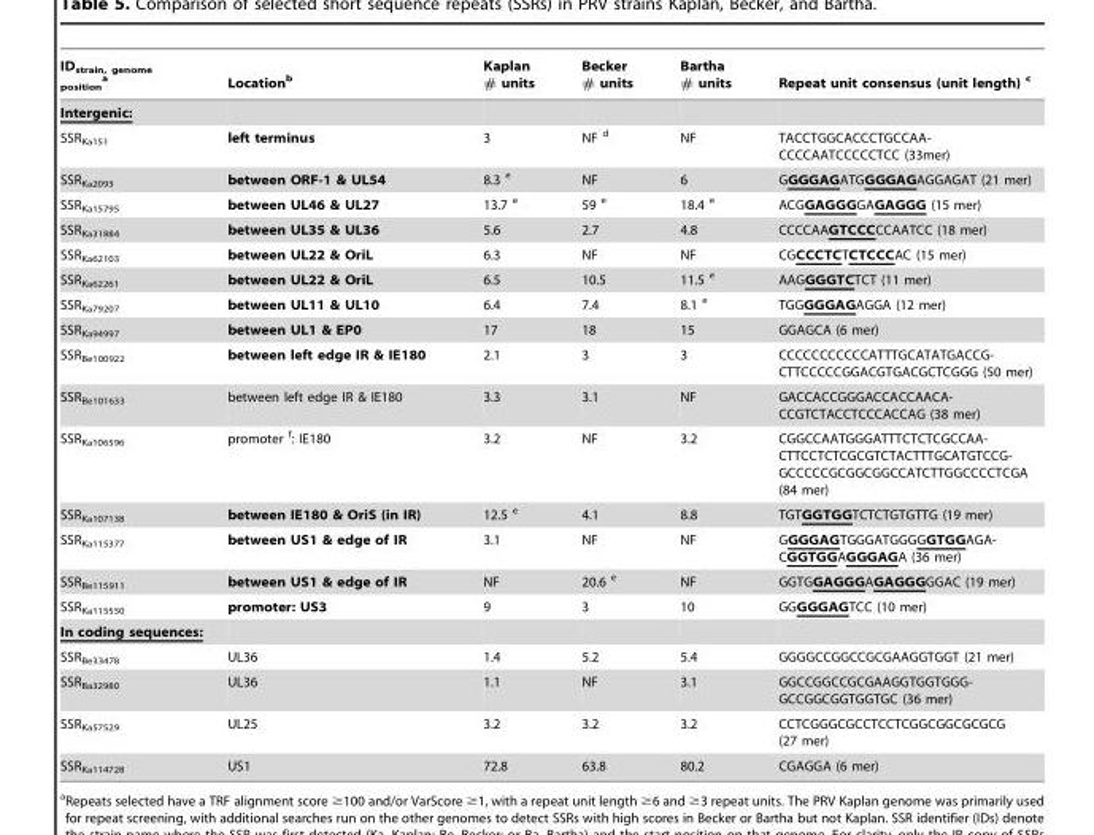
<table><thead><tr><td>ID<sub>strain, genome position</sub> a</td><td>Location<sup>b</sup></td><td>Kaplan # units</td><td>Becker # units</td><td>Bartha # units</td><td>Repeat unit consensus (unit length) c</td></tr></thead><tbody><tr><td colspan="6">Intergenic:</td></tr><tr><td>SSR<sub>Ka151</sub></td><td>left terminus</td><td>3</td><td>NF d</td><td>NF</td><td>TACCTGGCACCCTGCCAA- CCCCAATCCCCCTCC (33mer)</td></tr><tr><td>SSR<sub>Ka2093</sub></td><td>between ORF-1 &amp; UL54</td><td>8.3 e</td><td>NF</td><td>6</td><td>GGGGAGATGGGGAGAGGAGAT (21 mer)</td></tr><tr><td>SSR<sub>Ka15795</sub></td><td>between UL46 &amp; UL27</td><td>13.7 e</td><td>59 e</td><td>18.4 e</td><td>ACGGAGGGGAGAGGG (15 mer)</td></tr><tr><td>SSR<sub>Ka31884</sub></td><td>between UL35 &amp; UL36</td><td>5.6</td><td>2.7</td><td>4.8</td><td>CCCCAAGTCCCCCAATCC (18 mer)</td></tr><tr><td>SSR<sub>Ka62103</sub></td><td>between UL22 &amp; OriL</td><td>6.3</td><td>NF</td><td>NF</td><td>CGCCCTCTCTCCCAC (15 mer)</td></tr><tr><td>SSR<sub>Ka62261</sub></td><td>between UL22 &amp; OriL</td><td>6.5</td><td>10.5</td><td>11.5 e</td><td>AAGGGGTCTCT (11 mer)</td></tr><tr><td>SSR<sub>Ka79207</sub></td><td>between UL11 &amp; UL10</td><td>6.4</td><td>7.4</td><td>8.1 e</td><td>TGGGGGAGAGGA (12 mer)</td></tr><tr><td>SSR<sub>Ka94997</sub></td><td>between UL1 &amp; EP0</td><td>17</td><td>18</td><td>15</td><td>GGAGCA (6 mer)</td></tr><tr><td>SSR<sub>Be100922</sub></td><td>between left edge IR &amp; IE180</td><td>2.1</td><td>3</td><td>3</td><td>CCCCCCCCCCCATTTGCATATGACCG- CTTCCCCCGGACGTGACGCTCGGG (50 mer)</td></tr><tr><td>SSR<sub>Be101633</sub></td><td>between left edge IR &amp; IE180</td><td>3.3</td><td>3.1</td><td>NF</td><td>GACCACCGGGACCACCAACA- CCGTCTACCTCCCACCAG (38 mer)</td></tr><tr><td>SSR<sub>Ka106596</sub></td><td>promoter f: IE180</td><td>3.2</td><td>NF</td><td>3.2</td><td>CGGCCAATGGGATTTCTCTCGCCAA- CTTCCTCTCGCGTCTACTTTGCATGTCCG- GCCCCCGCGGCGGCCATCTTGGCCCCTCGA (84 mer)</td></tr><tr><td>SSR<sub>Ka107138</sub></td><td>between IE180 &amp; OriS (in IR)</td><td>12.5 e</td><td>4.1</td><td>8.8</td><td>TGTGGTGGTCTCTGTGTTG (19 mer)</td></tr><tr><td>SSR<sub>Ka115377</sub></td><td>between US1 &amp; edge of IR</td><td>3.1</td><td>NF</td><td>NF</td><td>GGGGAGTGGGATGGGGGTGGAGA- CGGTGGAGGGAGA (36 mer)</td></tr><tr><td>SSR<sub>Be115911</sub></td><td>between US1 &amp; edge of IR</td><td>NF</td><td>20.6 e</td><td>NF</td><td>GGTGGAGGGAGAGGGGGAC (19 mer)</td></tr><tr><td>SSR<sub>Ka115550</sub></td><td>promoter: US3</td><td>9</td><td>3</td><td>10</td><td>GGGGGAGTCC (10 mer)</td></tr><tr><td colspan="6">In coding sequences:</td></tr><tr><td>SSR<sub>Be33478</sub></td><td>UL36</td><td>1.4</td><td>5.2</td><td>5.4</td><td>GGGGCCGGCCGCGAAGGTGGT (21 mer)</td></tr><tr><td>SSR<sub>Ba32980</sub></td><td>UL36</td><td>1.1</td><td>NF</td><td>3.1</td><td>GGCCGGCCGCGAAGGTGGTGGG- GCCGGCGGTGGTGC (36 mer)</td></tr><tr><td>SSR<sub>Ka57529</sub></td><td>UL25</td><td>3.2</td><td>3.2</td><td>3.2</td><td>CCTCGGGCGCCTCCTCGGCGGCGCGCG (27 mer)</td></tr><tr><td>SSR<sub>Ka114728</sub></td><td>US1</td><td>72.8</td><td>63.8</td><td>80.2</td><td>CGAGGA (6 mer)</td></tr></tbody></table>